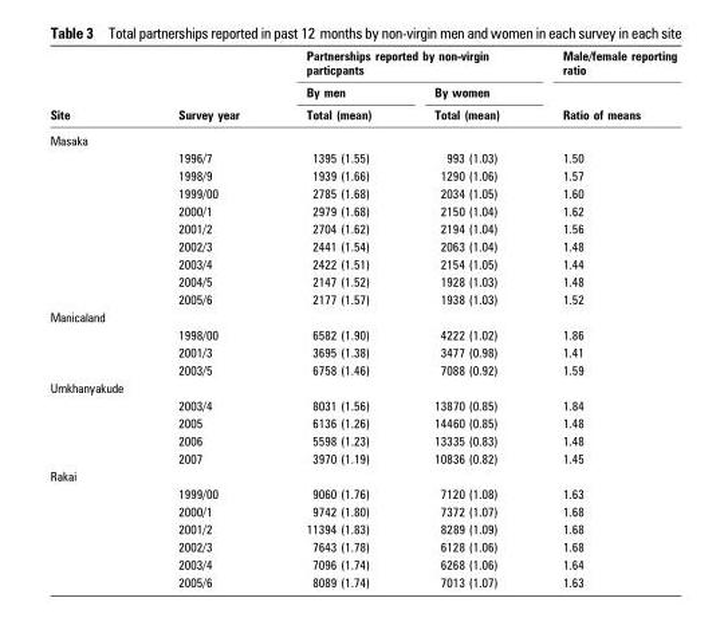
<table><thead><tr><td rowspan="3">Site</td><td rowspan="3">Survey year</td><td colspan="2">Partnerships reported by non-virgin particpants</td><td rowspan="3">Male/female reporting ratio Ratio of means</td></tr><tr><td rowspan="2">By men Total (mean)</td><td rowspan="2">By women Total (mean)</td></tr><tr></tr></thead><tbody><tr><td colspan="5">Masaka</td></tr><tr><td></td><td>1996/7</td><td>1395 (1.55)</td><td>993 (1.03)</td><td>1.50</td></tr><tr><td></td><td>1998/9</td><td>1939 (1.66)</td><td>1290 (1.06)</td><td>1.57</td></tr><tr><td></td><td>1999/00</td><td>2785 (1.68)</td><td>2034 (1.05)</td><td>1.60</td></tr><tr><td></td><td>2000/1</td><td>2979 (1.68)</td><td>2150 (1.04)</td><td>1.62</td></tr><tr><td></td><td>2001/2</td><td>2704 (1.62)</td><td>2194 (1.04)</td><td>1.56</td></tr><tr><td></td><td>2002/3</td><td>2441 (1.54)</td><td>2063 (1.04)</td><td>1.48</td></tr><tr><td></td><td>2003/4</td><td>2422 (1.51)</td><td>2154 (1.05)</td><td>1.44</td></tr><tr><td></td><td>2004/5</td><td>2147 (1.52)</td><td>1928 (1.03)</td><td>1.48</td></tr><tr><td></td><td>2005/6</td><td>2177 (1.57)</td><td>1938 (1.03)</td><td>1.52</td></tr><tr><td colspan="5">Manicaland</td></tr><tr><td></td><td>1998/00</td><td>6582 (1.90)</td><td>4222 (1.02)</td><td>1.86</td></tr><tr><td></td><td>2001/3</td><td>3695 (1.38)</td><td>3477 (0.98)</td><td>1.41</td></tr><tr><td></td><td>2003/5</td><td>6758 (1.46)</td><td>7088 (0.92)</td><td>1.59</td></tr><tr><td colspan="5">Umkhanyakude</td></tr><tr><td></td><td>2003/4</td><td>8031 (1.56)</td><td>13870 (0.85)</td><td>1.84</td></tr><tr><td></td><td>2005</td><td>6136 (1.26)</td><td>14460 (0.85)</td><td>1.48</td></tr><tr><td></td><td>2006</td><td>5598 (1.23)</td><td>13335 (0.83)</td><td>1.48</td></tr><tr><td></td><td>2007</td><td>3970 (1.19)</td><td>10836 (0.82)</td><td>1.45</td></tr><tr><td colspan="5">Rakai</td></tr><tr><td></td><td>1999/00</td><td>9060 (1.76)</td><td>7120 (1.08)</td><td>1.63</td></tr><tr><td></td><td>2000/1</td><td>9742 (1.80)</td><td>7372 (1.07)</td><td>1.68</td></tr><tr><td></td><td>2001/2</td><td>11394 (1.83)</td><td>8289 (1.09)</td><td>1.68</td></tr><tr><td></td><td>2002/3</td><td>7643 (1.78)</td><td>6128 (1.06)</td><td>1.68</td></tr><tr><td></td><td>2003/4</td><td>7096 (1.74)</td><td>6268 (1.06)</td><td>1.64</td></tr><tr><td></td><td>2005/6</td><td>8089 (1.74)</td><td>7013 (1.07)</td><td>1.63</td></tr></tbody></table>